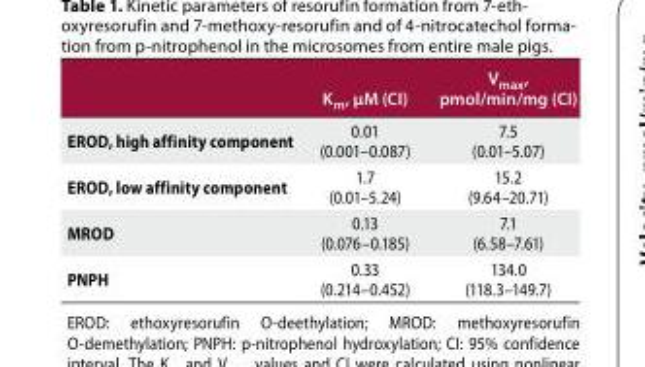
<table><thead><tr><td></td><td>K<sub>m</sub>, μM (CI)</td><td>V<sub>max</sub>, pmol/min/mg (CI)</td></tr></thead><tbody><tr><td>EROD, high affinity component</td><td>0.01 (0.001–0.087)</td><td>7.5 (0.01–5.07)</td></tr><tr><td>EROD, low affinity component</td><td>1.7 (0.01–5.24)</td><td>15.2 (9.64–20.71)</td></tr><tr><td>MROD</td><td>0.13 (0.076–0.185)</td><td>7.1 (6.58–7.61)</td></tr><tr><td>PNPH</td><td>0.33 (0.214–0.452)</td><td>134.0 (118.3–149.7)</td></tr></tbody></table>